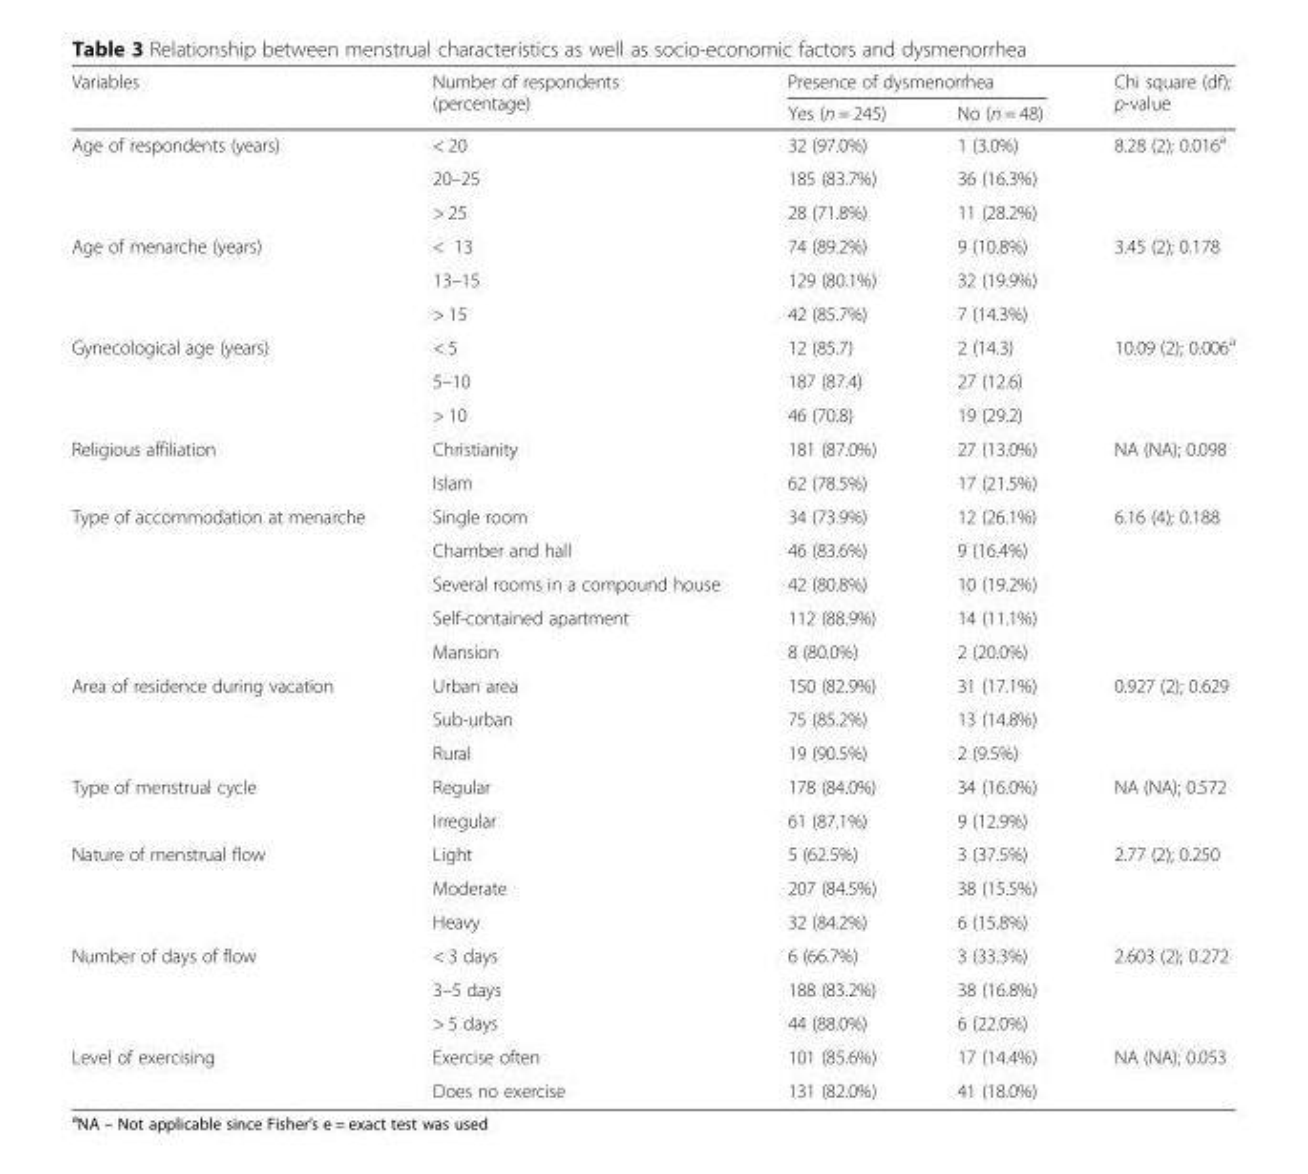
<table><thead><tr><td rowspan="2">Variables</td><td rowspan="2">Number of respondents (percentage)</td><td colspan="2">Presence of dysmenorrhea</td><td rowspan="2">Chi square (df); p-value</td></tr><tr><td>Yes (n = 245)</td><td>No (n = 48)</td></tr></thead><tbody><tr><td rowspan="3">Age of respondents (years)</td><td>&lt; 20</td><td>32 (97.0%)</td><td>1 (3.0%)</td><td rowspan="3">8.28 (2); 0.016<sup>a</sup></td></tr><tr><td>20–25</td><td>185 (83.7%)</td><td>36 (16.3%)</td></tr><tr><td>&gt; 25</td><td>28 (71.8%)</td><td>11 (28.2%)</td></tr><tr><td rowspan="3">Age of menarche (years)</td><td>&lt; 13</td><td>74 (89.2%)</td><td>9 (10.8%)</td><td rowspan="3">3.45 (2); 0.178</td></tr><tr><td>13–15</td><td>129 (80.1%)</td><td>32 (19.9%)</td></tr><tr><td>&gt; 15</td><td>42 (85.7%)</td><td>7 (14.3%)</td></tr><tr><td rowspan="3">Gynecological age (years)</td><td>&lt; 5</td><td>12 (85.7)</td><td>2 (14.3)</td><td rowspan="3">10.09 (2); 0.006<sup>a</sup></td></tr><tr><td>5–10</td><td>187 (87.4)</td><td>27 (12.6)</td></tr><tr><td>&gt; 10</td><td>46 (70.8)</td><td>19 (29.2)</td></tr><tr><td rowspan="2">Religious affiliation</td><td>Christianity</td><td>181 (87.0%)</td><td>27 (13.0%)</td><td rowspan="2">NA (NA); 0.098</td></tr><tr><td>Islam</td><td>62 (78.5%)</td><td>17 (21.5%)</td></tr><tr><td rowspan="5">Type of accommodation at menarche</td><td>Single room</td><td>34 (73.9%)</td><td>12 (26.1%)</td><td rowspan="5">6.16 (4); 0.188</td></tr><tr><td>Chamber and hall</td><td>46 (83.6%)</td><td>9 (16.4%)</td></tr><tr><td>Several rooms in a compound house</td><td>42 (80.8%)</td><td>10 (19.2%)</td></tr><tr><td>Self-contained apartment</td><td>112 (88.9%)</td><td>14 (11.1%)</td></tr><tr><td>Mansion</td><td>8 (80.0%)</td><td>2 (20.0%)</td></tr><tr><td rowspan="3">Area of residence during vacation</td><td>Urban area</td><td>150 (82.9%)</td><td>31 (17.1%)</td><td rowspan="3">0.927 (2); 0.629</td></tr><tr><td>Sub-urban</td><td>75 (85.2%)</td><td>13 (14.8%)</td></tr><tr><td>Rural</td><td>19 (90.5%)</td><td>2 (9.5%)</td></tr><tr><td rowspan="2">Type of menstrual cycle</td><td>Regular</td><td>178 (84.0%)</td><td>34 (16.0%)</td><td rowspan="2">NA (NA); 0.572</td></tr><tr><td>Irregular</td><td>61 (87.1%)</td><td>9 (12.9%)</td></tr><tr><td rowspan="3">Nature of menstrual flow</td><td>Light</td><td>5 (62.5%)</td><td>3 (37.5%)</td><td rowspan="3">2.77 (2); 0.250</td></tr><tr><td>Moderate</td><td>207 (84.5%)</td><td>38 (15.5%)</td></tr><tr><td>Heavy</td><td>32 (84.2%)</td><td>6 (15.8%)</td></tr><tr><td rowspan="3">Number of days of flow</td><td>&lt; 3 days</td><td>6 (66.7%)</td><td>3 (33.3%)</td><td rowspan="3">2.603 (2); 0.272</td></tr><tr><td>3–5 days</td><td>188 (83.2%)</td><td>38 (16.8%)</td></tr><tr><td>&gt; 5 days</td><td>44 (88.0%)</td><td>6 (22.0%)</td></tr><tr><td rowspan="2">Level of exercising</td><td>Exercise often</td><td>101 (85.6%)</td><td>17 (14.4%)</td><td rowspan="2">NA (NA); 0.053</td></tr><tr><td>Does no exercise</td><td>131 (82.0%)</td><td>41 (18.0%)</td></tr></tbody></table>